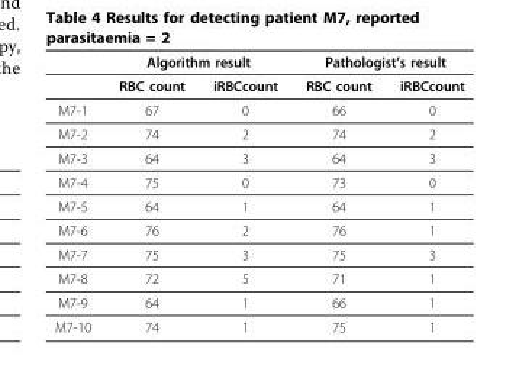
<table><thead><tr><td rowspan="2"></td><td colspan="2">Algorithm result</td><td colspan="2">Pathologist’s result</td></tr><tr><td>RBC count</td><td>iRBCcount</td><td>RBC count</td><td>iRBCcount</td></tr></thead><tbody><tr><td>M7-1</td><td>67</td><td>0</td><td>66</td><td>0</td></tr><tr><td>M7-2</td><td>74</td><td>2</td><td>74</td><td>2</td></tr><tr><td>M7-3</td><td>64</td><td>3</td><td>64</td><td>3</td></tr><tr><td>M7-4</td><td>75</td><td>0</td><td>73</td><td>0</td></tr><tr><td>M7-5</td><td>64</td><td>1</td><td>64</td><td>1</td></tr><tr><td>M7-6</td><td>76</td><td>2</td><td>76</td><td>1</td></tr><tr><td>M7-7</td><td>75</td><td>3</td><td>75</td><td>3</td></tr><tr><td>M7-8</td><td>72</td><td>5</td><td>71</td><td>1</td></tr><tr><td>M7-9</td><td>64</td><td>1</td><td>66</td><td>1</td></tr><tr><td>M7-10</td><td>74</td><td>1</td><td>75</td><td>1</td></tr></tbody></table>